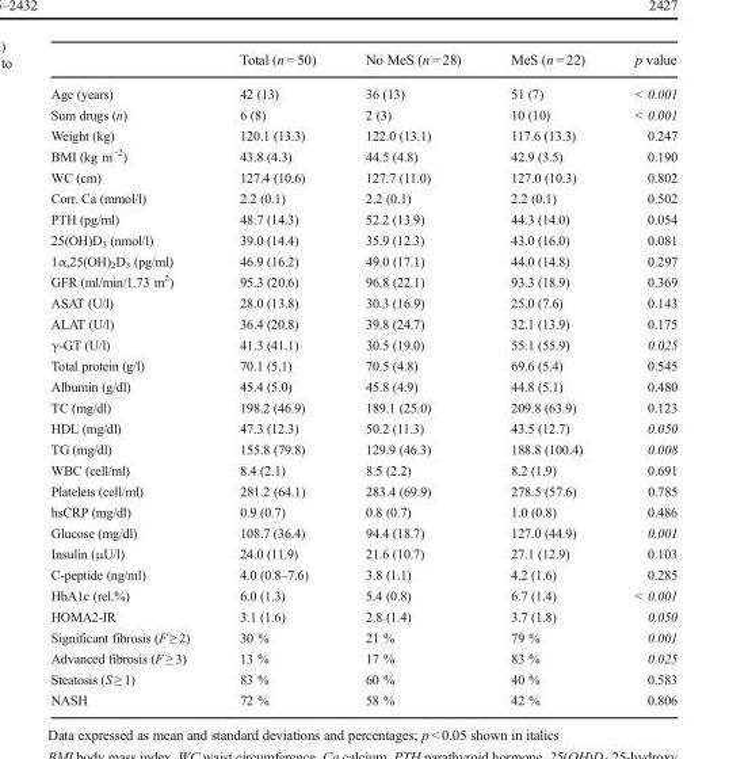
<table><thead><tr><td></td><td>Total (n = 50)</td><td>No MeS (n = 28)</td><td>MeS (n = 22)</td><td>p value</td></tr></thead><tbody><tr><td>Age (years)</td><td>42 (13)</td><td>36 (13)</td><td>51 (7)</td><td>&lt; 0.001</td></tr><tr><td>Sum drugs (n)</td><td>6 (8)</td><td>2 (3)</td><td>10 (10)</td><td>&lt; 0.001</td></tr><tr><td>Weight (kg)</td><td>120.1 (13.3)</td><td>122.0 (13.1)</td><td>117.6 (13.3)</td><td>0.247</td></tr><tr><td>BMI (kg m<sup>−2</sup>)</td><td>43.8 (4.3)</td><td>44.5 (4.8)</td><td>42.9 (3.5)</td><td>0.190</td></tr><tr><td>WC (cm)</td><td>127.4 (10.6)</td><td>127.7 (11.0)</td><td>127.0 (10.3)</td><td>0.802</td></tr><tr><td>Corr. Ca (mmol/l)</td><td>2.2 (0.1)</td><td>2.2 (0.1)</td><td>2.2 (0.1)</td><td>0.502</td></tr><tr><td>PTH (pg/ml)</td><td>48.7 (14.3)</td><td>52.2 (13.9)</td><td>44.3 (14.0)</td><td>0.054</td></tr><tr><td>25(OH)D<sub>3</sub> (nmol/l)</td><td>39.0 (14.4)</td><td>35.9 (12.3)</td><td>43.0 (16.0)</td><td>0.081</td></tr><tr><td>1α,25(OH)<sub>2</sub>D<sub>3</sub> (pg/ml)</td><td>46.9 (16.2)</td><td>49.0 (17.1)</td><td>44.0 (14.8)</td><td>0.297</td></tr><tr><td>GFR (ml/min/1.73 m<sup>2</sup>)</td><td>95.3 (20.6)</td><td>96.8 (22.1)</td><td>93.3 (18.9)</td><td>0.369</td></tr><tr><td>ASAT (U/l)</td><td>28.0 (13.8)</td><td>30.3 (16.9)</td><td>25.0 (7.6)</td><td>0.143</td></tr><tr><td>ALAT (U/l)</td><td>36.4 (20.8)</td><td>39.8 (24.7)</td><td>32.1 (13.9)</td><td>0.175</td></tr><tr><td>γ-GT (U/l)</td><td>41.3 (41.1)</td><td>30.5 (19.0)</td><td>55.1 (55.9)</td><td>0.025</td></tr><tr><td>Total protein (g/l)</td><td>70.1 (5.1)</td><td>70.5 (4.8)</td><td>69.6 (5.4)</td><td>0.545</td></tr><tr><td>Albumin (g/dl)</td><td>45.4 (5.0)</td><td>45.8 (4.9)</td><td>44.8 (5.1)</td><td>0.480</td></tr><tr><td>TC (mg/dl)</td><td>198.2 (46.9)</td><td>189.1 (25.0)</td><td>209.8 (63.9)</td><td>0.123</td></tr><tr><td>HDL (mg/dl)</td><td>47.3 (12.3)</td><td>50.2 (11.3)</td><td>43.5 (12.7)</td><td>0.050</td></tr><tr><td>TG (mg/dl)</td><td>155.8 (79.8)</td><td>129.9 (46.3)</td><td>188.8 (100.4)</td><td>0.008</td></tr><tr><td>WBC (cell/ml)</td><td>8.4 (2.1)</td><td>8.5 (2.2)</td><td>8.2 (1.9)</td><td>0.691</td></tr><tr><td>Platelets (cell/ml)</td><td>281.2 (64.1)</td><td>283.4 (69.9)</td><td>278.5 (57.6)</td><td>0.785</td></tr><tr><td>hsCRP (mg/dl)</td><td>0.9 (0.7)</td><td>0.8 (0.7)</td><td>1.0 (0.8)</td><td>0.486</td></tr><tr><td>Glucose (mg/dl)</td><td>108.7 (36.4)</td><td>94.4 (18.7)</td><td>127.0 (44.9)</td><td>0.001</td></tr><tr><td>Insulin (μU/l)</td><td>24.0 (11.9)</td><td>21.6 (10.7)</td><td>27.1 (12.9)</td><td>0.103</td></tr><tr><td>C-peptide (ng/ml)</td><td>4.0 (0.8–7.6)</td><td>3.8 (1.1)</td><td>4.2 (1.6)</td><td>0.285</td></tr><tr><td>HbA1c (rel.%)</td><td>6.0 (1.3)</td><td>5.4 (0.8)</td><td>6.7 (1.4)</td><td>&lt; 0.001</td></tr><tr><td>HOMA2-IR</td><td>3.1 (1.6)</td><td>2.8 (1.4)</td><td>3.7 (1.8)</td><td>0.050</td></tr><tr><td>Significant fibrosis (F ≥ 2)</td><td>30 %</td><td>21 %</td><td>79 %</td><td>0.001</td></tr><tr><td>Advanced fibrosis (F ≥ 3)</td><td>13 %</td><td>17 %</td><td>83 %</td><td>0.025</td></tr><tr><td>Steatosis (S ≥ 1)</td><td>83 %</td><td>60 %</td><td>40 %</td><td>0.583</td></tr><tr><td>NASH</td><td>72 %</td><td>58 %</td><td>42 %</td><td>0.806</td></tr></tbody></table>